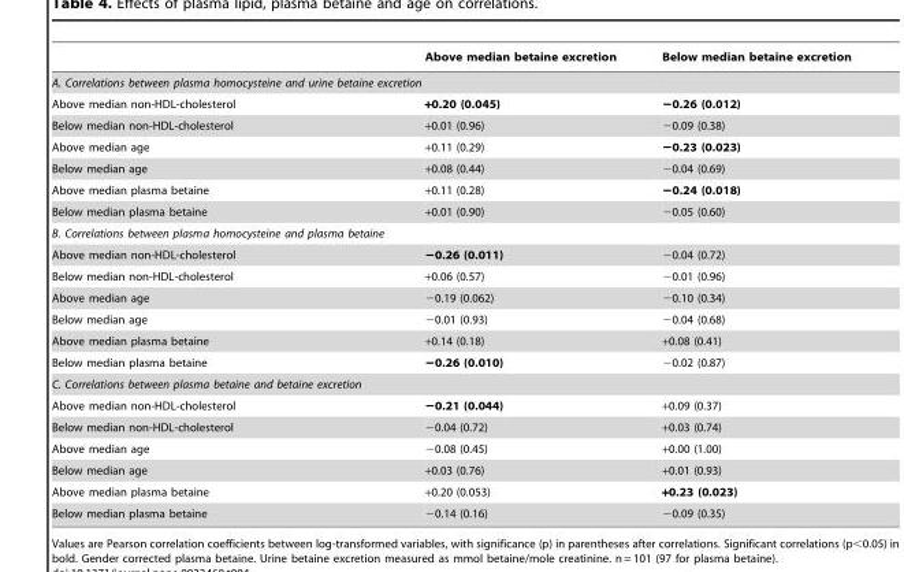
<table><thead><tr><td></td><td>Above median betaine excretion</td><td>Below median betaine excretion</td></tr></thead><tbody><tr><td colspan="3">A. Correlations between plasma homocysteine and urine betaine excretion</td></tr><tr><td>Above median non-HDL-cholesterol</td><td>+0.20 (0.045)</td><td>−0.26 (0.012)</td></tr><tr><td>Below median non-HDL-cholesterol</td><td>+0.01 (0.96)</td><td>−0.09 (0.38)</td></tr><tr><td>Above median age</td><td>+0.11 (0.29)</td><td>−0.23 (0.023)</td></tr><tr><td>Below median age</td><td>+0.08 (0.44)</td><td>−0.04 (0.69)</td></tr><tr><td>Above median plasma betaine</td><td>+0.11 (0.28)</td><td>−0.24 (0.018)</td></tr><tr><td>Below median plasma betaine</td><td>+0.01 (0.90)</td><td>−0.05 (0.60)</td></tr><tr><td colspan="3">B. Correlations between plasma homocysteine and plasma betaine</td></tr><tr><td>Above median non-HDL-cholesterol</td><td>−0.26 (0.011)</td><td>−0.04 (0.72)</td></tr><tr><td>Below median non-HDL-cholesterol</td><td>+0.06 (0.57)</td><td>−0.01 (0.96)</td></tr><tr><td>Above median age</td><td>−0.19 (0.062)</td><td>−0.10 (0.34)</td></tr><tr><td>Below median age</td><td>−0.01 (0.93)</td><td>−0.04 (0.68)</td></tr><tr><td>Above median plasma betaine</td><td>+0.14 (0.18)</td><td>+0.08 (0.41)</td></tr><tr><td>Below median plasma betaine</td><td>−0.26 (0.010)</td><td>−0.02 (0.87)</td></tr><tr><td colspan="3">C. Correlations between plasma betaine and betaine excretion</td></tr><tr><td>Above median non-HDL-cholesterol</td><td>−0.21 (0.044)</td><td>+0.09 (0.37)</td></tr><tr><td>Below median non-HDL-cholesterol</td><td>−0.04 (0.72)</td><td>+0.03 (0.74)</td></tr><tr><td>Above median age</td><td>−0.08 (0.45)</td><td>+0.00 (1.00)</td></tr><tr><td>Below median age</td><td>+0.03 (0.76)</td><td>+0.01 (0.93)</td></tr><tr><td>Above median plasma betaine</td><td>+0.20 (0.053)</td><td>+0.23 (0.023)</td></tr><tr><td>Below median plasma betaine</td><td>−0.14 (0.16)</td><td>−0.09 (0.35)</td></tr></tbody></table>